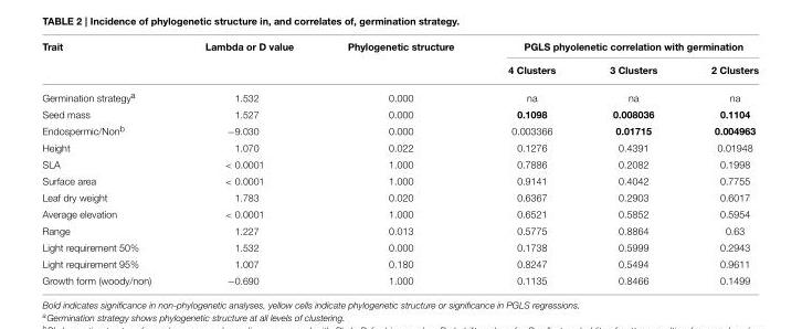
<table><thead><tr><td rowspan="2">Trait</td><td rowspan="2">Lambda or D value</td><td rowspan="2">Phylogenetic structure</td><td colspan="3">PGLS phyolenetic correlation with germination</td></tr><tr><td>4 Clusters</td><td>3 Clusters</td><td>2 Clusters</td></tr></thead><tbody><tr><td>Germination strategy<sup>a</sup></td><td>1.532</td><td>0.000</td><td>na</td><td>na</td><td>na</td></tr><tr><td>Seed mass</td><td>1.527</td><td>0.000</td><td>0.1098</td><td>0.008036</td><td>0.1104</td></tr><tr><td>Endospermic/Non<sup>b</sup></td><td>−9.030</td><td>0.000</td><td>0.003366</td><td>0.01715</td><td>0.004963</td></tr><tr><td>Height</td><td>1.070</td><td>0.022</td><td>0.1276</td><td>0.4391</td><td>0.01948</td></tr><tr><td>SLA</td><td>&lt; 0.0001</td><td>1.000</td><td>0.7886</td><td>0.2082</td><td>0.1998</td></tr><tr><td>Surface area</td><td>&lt; 0.0001</td><td>1.000</td><td>0.9141</td><td>0.4042</td><td>0.7755</td></tr><tr><td>Leaf dry weight</td><td>1.783</td><td>0.020</td><td>0.6367</td><td>0.2903</td><td>0.6017</td></tr><tr><td>Average elevation</td><td>&lt; 0.0001</td><td>1.000</td><td>0.6521</td><td>0.5852</td><td>0.5954</td></tr><tr><td>Range</td><td>1.227</td><td>0.013</td><td>0.5775</td><td>0.8864</td><td>0.63</td></tr><tr><td>Light requirement 50%</td><td>1.532</td><td>0.000</td><td>0.1738</td><td>0.5999</td><td>0.2943</td></tr><tr><td>Light requirement 95%</td><td>1.007</td><td>0.180</td><td>0.8247</td><td>0.5494</td><td>0.9611</td></tr><tr><td>Growth form (woody/non)</td><td>−0.690</td><td>1.000</td><td>0.1135</td><td>0.8466</td><td>0.1499</td></tr></tbody></table>